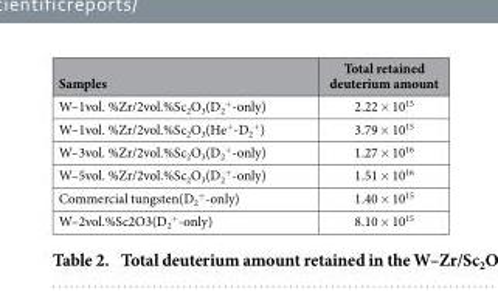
<table><thead><tr><td>Samples</td><td>Total retained deuterium amount</td></tr></thead><tbody><tr><td>W–1vol. %Zr/2vol.%Sc<sub>2</sub>O<sub>3</sub>(D<sub>2</sub> <sup>+</sup>-only)</td><td>2.22 × 10<sup>15</sup></td></tr><tr><td>W–1vol. %Zr/2vol.%Sc<sub>2</sub>O<sub>3</sub>(He<sup>+</sup>-D<sub>2</sub> <sup>+</sup>)</td><td>3.79 × 10<sup>15</sup></td></tr><tr><td>W–3vol. %Zr/2vol.%Sc<sub>2</sub>O<sub>3</sub>(D<sub>2</sub> <sup>+</sup>-only)</td><td>1.27 × 10<sup>16</sup></td></tr><tr><td>W–5vol. %Zr/2vol.%Sc<sub>2</sub>O<sub>3</sub>(D<sub>2</sub> <sup>+</sup>-only)</td><td>1.51 × 10<sup>16</sup></td></tr><tr><td>Commercial tungsten(D<sub>2</sub> <sup>+</sup>-only)</td><td>1.40 × 10<sup>15</sup></td></tr><tr><td>W–2vol.%Sc2O3(D<sub>2</sub> <sup>+</sup>-only)</td><td>8.10 × 10<sup>15</sup></td></tr></tbody></table>